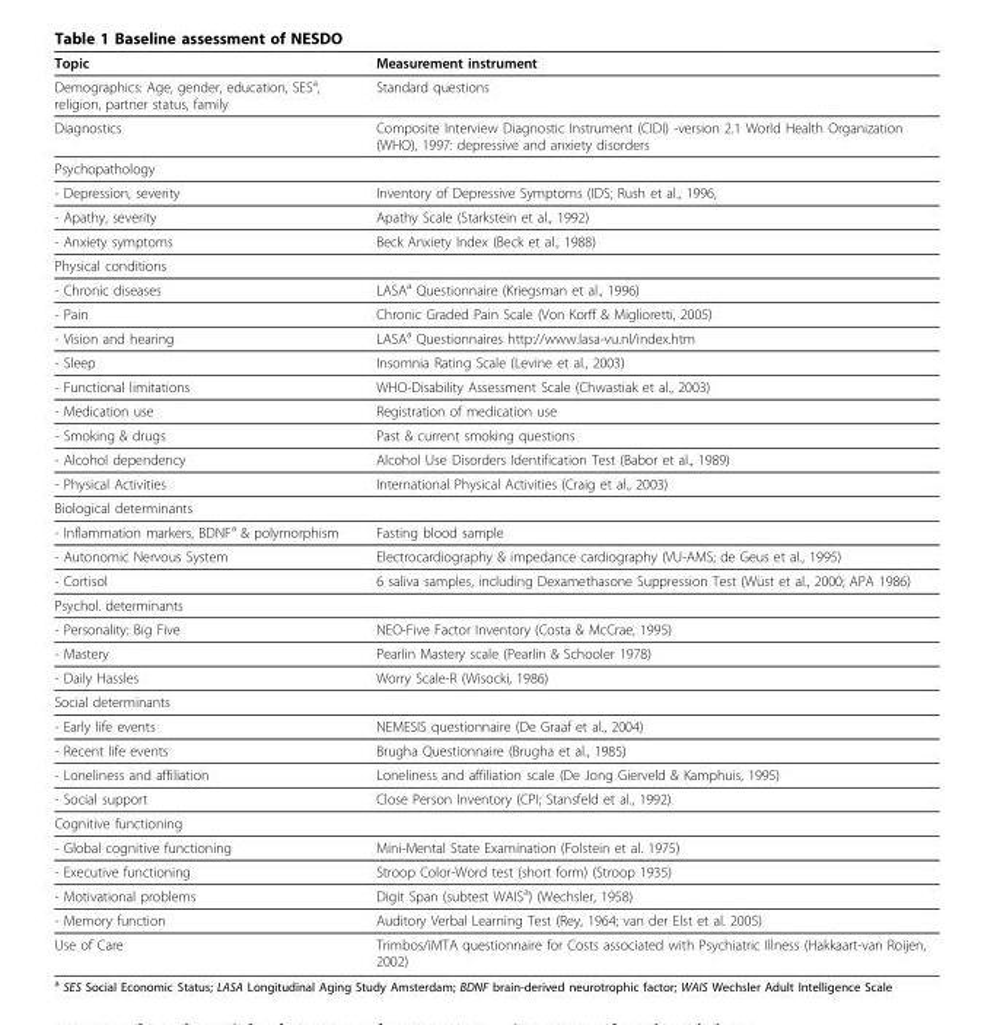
<table><thead><tr><td>Topic</td><td>Measurement instrument</td></tr></thead><tbody><tr><td>Demographics: Age, gender, education, SES<sup>a</sup>, religion, partner status, family</td><td>Standard questions</td></tr><tr><td>Diagnostics</td><td>Composite Interview Diagnostic Instrument (CIDI) -version 2.1 World Health Organization (WHO), 1997: depressive and anxiety disorders</td></tr><tr><td colspan="2">Psychopathology</td></tr><tr><td>- Depression, severity</td><td>Inventory of Depressive Symptoms (IDS; Rush et al., 1996,</td></tr><tr><td>- Apathy, severity</td><td>Apathy Scale (Starkstein et al., 1992)</td></tr><tr><td>- Anxiety symptoms</td><td>Beck Anxiety Index (Beck et al., 1988)</td></tr><tr><td colspan="2">Physical conditions</td></tr><tr><td>- Chronic diseases</td><td>LASA<sup>a</sup> Questionnaire (Kriegsman et al., 1996)</td></tr><tr><td>- Pain</td><td>Chronic Graded Pain Scale (Von Korff &amp; Miglioretti, 2005)</td></tr><tr><td>- Vision and hearing</td><td>LASA<sup>a</sup> Questionnaires http://www.lasa-vu.nl/index.htm</td></tr><tr><td>- Sleep</td><td>Insomnia Rating Scale (Levine et al., 2003)</td></tr><tr><td>- Functional limitations</td><td>WHO-Disability Assessment Scale (Chwastiak et al., 2003)</td></tr><tr><td>- Medication use</td><td>Registration of medication use</td></tr><tr><td>- Smoking &amp; drugs</td><td>Past &amp; current smoking questions</td></tr><tr><td>- Alcohol dependency</td><td>Alcohol Use Disorders Identification Test (Babor et al., 1989)</td></tr><tr><td>- Physical Activities</td><td>International Physical Activities (Craig et al., 2003)</td></tr><tr><td colspan="2">Biological determinants</td></tr><tr><td>- Inflammation markers, BDNF<sup>a</sup> &amp; polymorphism</td><td>Fasting blood sample</td></tr><tr><td>- Autonomic Nervous System</td><td>Electrocardiography &amp; impedance cardiography (VU-AMS; de Geus et al., 1995)</td></tr><tr><td>- Cortisol</td><td>6 saliva samples, including Dexamethasone Suppression Test (Wüst et al., 2000; APA 1986)</td></tr><tr><td colspan="2">Psychol. determinants</td></tr><tr><td>- Personality: Big Five</td><td>NEO-Five Factor Inventory (Costa &amp; McCrae, 1995)</td></tr><tr><td>- Mastery</td><td>Pearlin Mastery scale (Pearlin &amp; Schooler 1978)</td></tr><tr><td>- Daily Hassles</td><td>Worry Scale-R (Wisocki, 1986)</td></tr><tr><td colspan="2">Social determinants</td></tr><tr><td>- Early life events</td><td>NEMESIS questionnaire (De Graaf et al., 2004)</td></tr><tr><td>- Recent life events</td><td>Brugha Questionnaire (Brugha et al., 1985)</td></tr><tr><td>- Loneliness and affiliation</td><td>Loneliness and affiliation scale (De Jong Gierveld &amp; Kamphuis, 1995)</td></tr><tr><td>- Social support</td><td>Close Person Inventory (CPI; Stansfeld et al., 1992)</td></tr><tr><td colspan="2">Cognitive functioning</td></tr><tr><td>- Global cognitive functioning</td><td>Mini-Mental State Examination (Folstein et al. 1975)</td></tr><tr><td>- Executive functioning</td><td>Stroop Color-Word test (short form) (Stroop 1935)</td></tr><tr><td>- Motivational problems</td><td>Digit Span (subtest WAIS<sup>a</sup>) (Wechsler, 1958)</td></tr><tr><td>- Memory function</td><td>Auditory Verbal Learning Test (Rey, 1964; van der Elst et al. 2005)</td></tr><tr><td>Use of Care</td><td>Trimbos/iMTA questionnaire for Costs associated with Psychiatric Illness (Hakkaart-van Roijen, 2002)</td></tr></tbody></table>